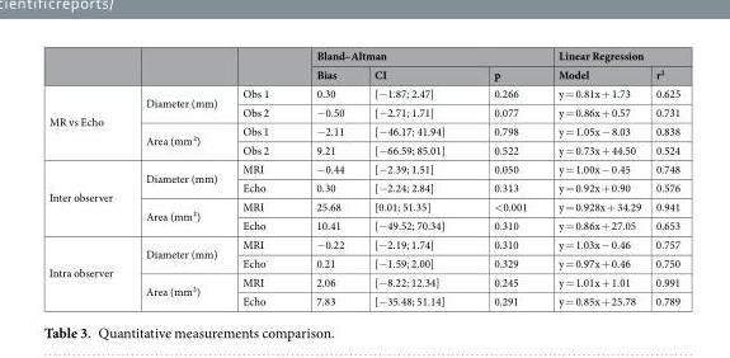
<table><thead><tr><td rowspan="2"></td><td rowspan="2"></td><td rowspan="2"></td><td colspan="3">Bland–Altman</td><td colspan="2">Linear Regression</td></tr><tr><td>Bias</td><td>CI</td><td>p</td><td>Model</td><td>r<sup>2</sup></td></tr></thead><tbody><tr><td rowspan="4">MR vs Echo</td><td rowspan="2">Diameter (mm)</td><td>Obs 1</td><td>0.30</td><td>[−1.87; 2.47]</td><td>0.266</td><td>y = 0.81x + 1.73</td><td>0.625</td></tr><tr><td>Obs 2</td><td>−0.50</td><td>[−2.71; 1.71]</td><td>0.077</td><td>y = 0.86x + 0.57</td><td>0.731</td></tr><tr><td rowspan="2">Area (mm²)</td><td>Obs 1</td><td>−2.11</td><td>[−46.17; 41.94]</td><td>0.798</td><td>y = 1.05x − 8.03</td><td>0.838</td></tr><tr><td>Obs 2</td><td>9.21</td><td>[−66.59; 85.01]</td><td>0.522</td><td>y = 0.73x + 44.50</td><td>0.524</td></tr><tr><td rowspan="4">Inter observer</td><td rowspan="2">Diameter (mm)</td><td>MRI</td><td>−0.44</td><td>[−2.39; 1.51]</td><td>0.050</td><td>y = 1.00x − 0.45</td><td>0.748</td></tr><tr><td>Echo</td><td>0.30</td><td>[−2.24; 2.84]</td><td>0.313</td><td>y = 0.92x + 0.90</td><td>0.576</td></tr><tr><td rowspan="2">Area (mm²)</td><td>MRI</td><td>25.68</td><td>[0.01; 51.35]</td><td>&lt;0.001</td><td>y = 0.928x + 34.29</td><td>0.941</td></tr><tr><td>Echo</td><td>10.41</td><td>[−49.52; 70.34]</td><td>0.310</td><td>y = 0.86x + 27.05</td><td>0.653</td></tr><tr><td rowspan="4">Intra observer</td><td rowspan="2">Diameter (mm)</td><td>MRI</td><td>−0.22</td><td>[−2.19; 1.74]</td><td>0.310</td><td>y = 1.03x − 0.46</td><td>0.757</td></tr><tr><td>Echo</td><td>0.21</td><td>[−1.59; 2.00]</td><td>0.329</td><td>y = 0.97x + 0.46</td><td>0.750</td></tr><tr><td rowspan="2">Area (mm²)</td><td>MRI</td><td>2.06</td><td>[−8.22; 12.34]</td><td>0.245</td><td>y = 1.01x + 1.01</td><td>0.991</td></tr><tr><td>Echo</td><td>7.83</td><td>[−35.48; 51.14]</td><td>0.291</td><td>y = 0.85x + 25.78</td><td>0.789</td></tr></tbody></table>